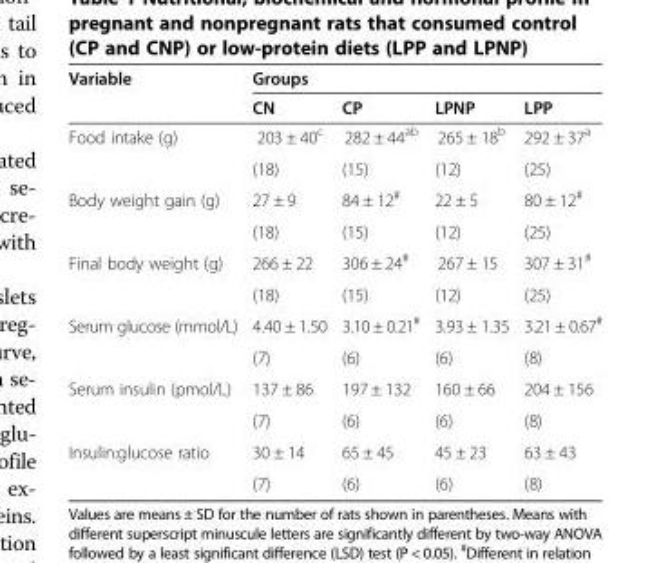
<table><thead><tr><td rowspan="2">Variable</td><td colspan="4">Groups</td></tr><tr><td>CN</td><td>CP</td><td>LPNP</td><td>LPP</td></tr></thead><tbody><tr><td rowspan="2">Food intake (g)</td><td>203 ± 40<sup>c</sup></td><td>282 ± 44<sup>ab</sup></td><td>265 ± 18<sup>b</sup></td><td>292 ± 37<sup>a</sup></td></tr><tr><td>(18)</td><td>(15)</td><td>(12)</td><td>(25)</td></tr><tr><td rowspan="2">Body weight gain (g)</td><td>27 ± 9</td><td>84 ± 12<sup>#</sup></td><td>22 ± 5</td><td>80 ± 12<sup>#</sup></td></tr><tr><td>(18)</td><td>(15)</td><td>(12)</td><td>(25)</td></tr><tr><td rowspan="2">Final body weight (g)</td><td>266 ± 22</td><td>306 ± 24<sup>#</sup></td><td>267 ± 15</td><td>307 ± 31<sup>#</sup></td></tr><tr><td>(18)</td><td>(15)</td><td>(12)</td><td>(25)</td></tr><tr><td rowspan="2">Serum glucose (mmol/L)</td><td>4.40 ± 1.50</td><td>3.10 ± 0.21<sup>#</sup></td><td>3.93 ± 1.35</td><td>3.21 ± 0.67<sup>#</sup></td></tr><tr><td>(7)</td><td>(6)</td><td>(6)</td><td>(8)</td></tr><tr><td rowspan="2">Serum insulin (pmol/L)</td><td>137 ± 86</td><td>197 ± 132</td><td>160 ± 66</td><td>204 ± 156</td></tr><tr><td>(7)</td><td>(6)</td><td>(6)</td><td>(8)</td></tr><tr><td rowspan="2">Insulin:glucose ratio</td><td>30 ± 14</td><td>65 ± 45</td><td>45 ± 23</td><td>63 ± 43</td></tr><tr><td>(7)</td><td>(6)</td><td>(6)</td><td>(8)</td></tr></tbody></table>